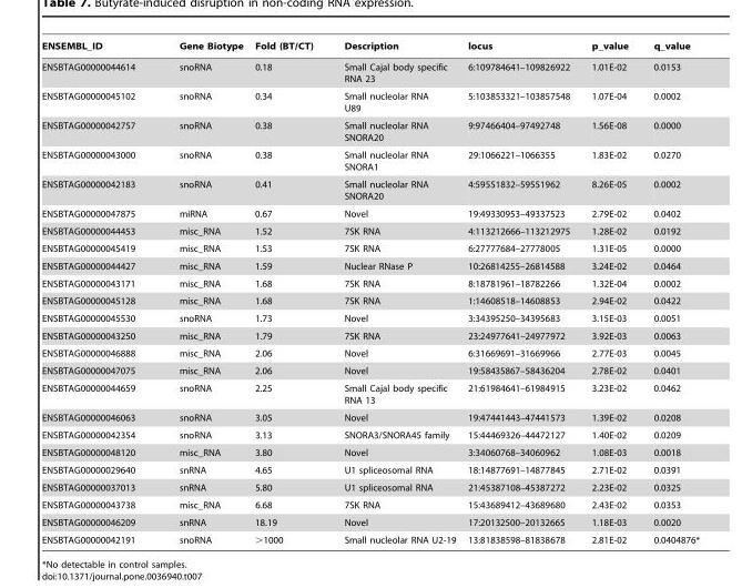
<table><thead><tr><td>ENSEMBL_ID</td><td>Gene Biotype</td><td>Fold (BT/CT)</td><td>Description</td><td>locus</td><td>p_value</td><td>q_value</td></tr></thead><tbody><tr><td>ENSBTAG00000044614</td><td>snoRNA</td><td>0.18</td><td>Small Cajal body specific RNA 23</td><td>6:109784641–109826922</td><td>1.01E-02</td><td>0.0153</td></tr><tr><td>ENSBTAG00000045102</td><td>snoRNA</td><td>0.34</td><td>Small nucleolar RNA U89</td><td>5:103853321–103857548</td><td>1.07E-04</td><td>0.0002</td></tr><tr><td>ENSBTAG00000042757</td><td>snoRNA</td><td>0.38</td><td>Small nucleolar RNA SNORA20</td><td>9:97466404–97492748</td><td>1.56E-08</td><td>0.0000</td></tr><tr><td>ENSBTAG00000043000</td><td>snoRNA</td><td>0.38</td><td>Small nucleolar RNA SNORA1</td><td>29:1066221–1066355</td><td>1.83E-02</td><td>0.0270</td></tr><tr><td>ENSBTAG00000042183</td><td>snoRNA</td><td>0.41</td><td>Small nucleolar RNA SNORA20</td><td>4:59551832–59551962</td><td>8.26E-05</td><td>0.0002</td></tr><tr><td>ENSBTAG00000047875</td><td>miRNA</td><td>0.67</td><td>Novel</td><td>19:49330953–49337523</td><td>2.79E-02</td><td>0.0402</td></tr><tr><td>ENSBTAG00000044453</td><td>misc_RNA</td><td>1.52</td><td>7SK RNA</td><td>4:113212666–113212975</td><td>1.28E-02</td><td>0.0192</td></tr><tr><td>ENSBTAG00000045419</td><td>misc_RNA</td><td>1.53</td><td>7SK RNA</td><td>6:27777684–27778005</td><td>1.31E-05</td><td>0.0000</td></tr><tr><td>ENSBTAG00000044427</td><td>misc_RNA</td><td>1.59</td><td>Nuclear RNase P</td><td>10:26814255–26814588</td><td>3.24E-02</td><td>0.0464</td></tr><tr><td>ENSBTAG00000043171</td><td>misc_RNA</td><td>1.68</td><td>7SK RNA</td><td>8:18781961–18782266</td><td>1.32E-04</td><td>0.0002</td></tr><tr><td>ENSBTAG00000045128</td><td>misc_RNA</td><td>1.68</td><td>7SK RNA</td><td>1:14608518–14608853</td><td>2.94E-02</td><td>0.0422</td></tr><tr><td>ENSBTAG00000045530</td><td>snoRNA</td><td>1.73</td><td>Novel</td><td>3:34395250–34395683</td><td>3.15E-03</td><td>0.0051</td></tr><tr><td>ENSBTAG00000043250</td><td>misc_RNA</td><td>1.79</td><td>7SK RNA</td><td>23:24977641–24977972</td><td>3.92E-03</td><td>0.0063</td></tr><tr><td>ENSBTAG00000046888</td><td>misc_RNA</td><td>2.06</td><td>Novel</td><td>6:31669691–31669966</td><td>2.77E-03</td><td>0.0045</td></tr><tr><td>ENSBTAG00000047075</td><td>misc_RNA</td><td>2.06</td><td>Novel</td><td>19:58435867–58436204</td><td>2.78E-02</td><td>0.0401</td></tr><tr><td>ENSBTAG00000044659</td><td>snoRNA</td><td>2.25</td><td>Small Cajal body specific RNA 13</td><td>21:61984641–61984915</td><td>3.23E-02</td><td>0.0462</td></tr><tr><td>ENSBTAG00000046063</td><td>snoRNA</td><td>3.05</td><td>Novel</td><td>19:47441443–47441573</td><td>1.39E-02</td><td>0.0208</td></tr><tr><td>ENSBTAG00000042354</td><td>snoRNA</td><td>3.13</td><td>SNORA3/SNORA45 family</td><td>15:44469326–44472127</td><td>1.40E-02</td><td>0.0209</td></tr><tr><td>ENSBTAG00000048120</td><td>misc_RNA</td><td>3.80</td><td>Novel</td><td>3:34060768–34060962</td><td>1.08E-03</td><td>0.0018</td></tr><tr><td>ENSBTAG00000029640</td><td>snRNA</td><td>4.65</td><td>U1 spliceosomal RNA</td><td>18:14877691–14877845</td><td>2.71E-02</td><td>0.0391</td></tr><tr><td>ENSBTAG00000037013</td><td>snRNA</td><td>5.80</td><td>U1 spliceosomal RNA</td><td>21:45387108–45387272</td><td>2.23E-02</td><td>0.0325</td></tr><tr><td>ENSBTAG00000043738</td><td>misc_RNA</td><td>6.68</td><td>7SK RNA</td><td>15:43689412–43689680</td><td>2.43E-02</td><td>0.0353</td></tr><tr><td>ENSBTAG00000046209</td><td>snRNA</td><td>18.19</td><td>Novel</td><td>17:20132500–20132665</td><td>1.18E-03</td><td>0.0020</td></tr><tr><td>ENSBTAG00000042191</td><td>snoRNA</td><td>&gt;1000</td><td>Small nucleolar RNA U2-19</td><td>13:81838598–81838678</td><td>2.81E-02</td><td>0.0404876*</td></tr></tbody></table>